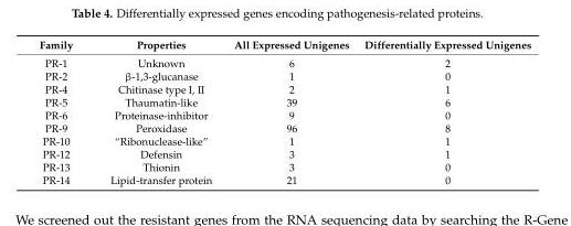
<table><thead><tr><td>Family</td><td>Properties</td><td>All Expressed Unigenes</td><td>Differentially Expressed Unigenes</td></tr></thead><tbody><tr><td>PR-1</td><td>Unknown</td><td>6</td><td>2</td></tr><tr><td>PR-2</td><td>β-1,3-glucanase</td><td>1</td><td>0</td></tr><tr><td>PR-4</td><td>Chitinase type I, II</td><td>2</td><td>1</td></tr><tr><td>PR-5</td><td>Thaumatin-like</td><td>39</td><td>6</td></tr><tr><td>PR-6</td><td>Proteinase-inhibitor</td><td>9</td><td>0</td></tr><tr><td>PR-9</td><td>Peroxidase</td><td>96</td><td>8</td></tr><tr><td>PR-10</td><td>“Ribonuclease-like”</td><td>1</td><td>1</td></tr><tr><td>PR-12</td><td>Defensin</td><td>3</td><td>1</td></tr><tr><td>PR-13</td><td>Thionin</td><td>3</td><td>0</td></tr><tr><td>PR-14</td><td>Lipid-transfer protein</td><td>21</td><td>0</td></tr></tbody></table>